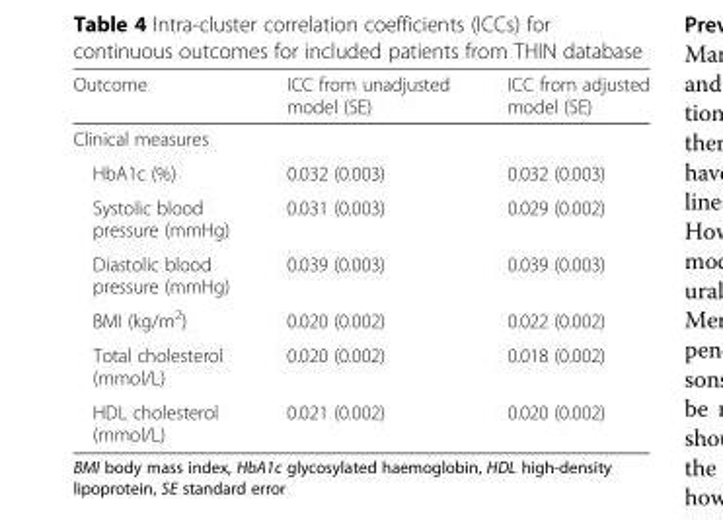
<table><thead><tr><td>Outcome</td><td>ICC from unadjusted model (SE)</td><td>ICC from adjusted model (SE)</td></tr></thead><tbody><tr><td colspan="3">Clinical measures</td></tr><tr><td>HbA1c (%)</td><td>0.032 (0.003)</td><td>0.032 (0.003)</td></tr><tr><td>Systolic blood pressure (mmHg)</td><td>0.031 (0.003)</td><td>0.029 (0.002)</td></tr><tr><td>Diastolic blood pressure (mmHg)</td><td>0.039 (0.003)</td><td>0.039 (0.003)</td></tr><tr><td>BMI (kg/m<sup>2</sup>)</td><td>0.020 (0.002)</td><td>0.022 (0.002)</td></tr><tr><td>Total cholesterol (mmol/L)</td><td>0.020 (0.002)</td><td>0.018 (0.002)</td></tr><tr><td>HDL cholesterol (mmol/L)</td><td>0.021 (0.002)</td><td>0.020 (0.002)</td></tr></tbody></table>